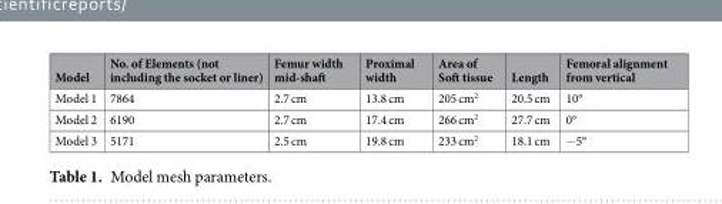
<table><thead><tr><td>Model</td><td>No. of Elements (not including the socket or liner)</td><td>Femur width mid-shaft</td><td>Proximal width</td><td>Area of Soft tissue</td><td>Length</td><td>Femoral alignment from vertical</td></tr></thead><tbody><tr><td>Model 1</td><td>7864</td><td>2.7 cm</td><td>13.8 cm</td><td>205 cm<sup>2</sup></td><td>20.5 cm</td><td>10°</td></tr><tr><td>Model 2</td><td>6190</td><td>2.7 cm</td><td>17.4 cm</td><td>266 cm<sup>2</sup></td><td>27.7 cm</td><td>0°</td></tr><tr><td>Model 3</td><td>5171</td><td>2.5 cm</td><td>19.8 cm</td><td>233 cm<sup>2</sup></td><td>18.1 cm</td><td>−5°</td></tr></tbody></table>